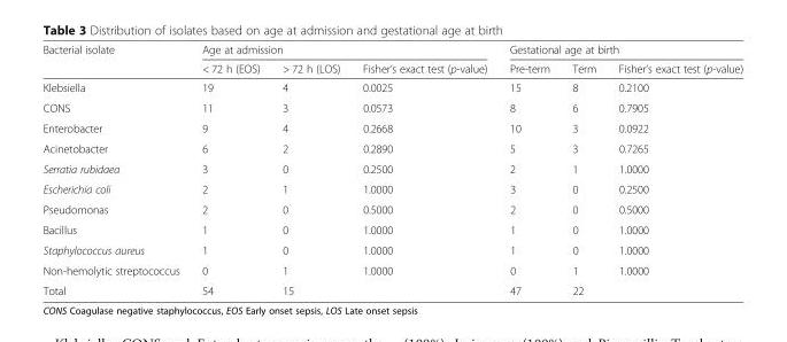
<table><thead><tr><td rowspan="2">Bacterial isolate</td><td colspan="3">Age at admission</td><td colspan="3">Gestational age at birth</td></tr><tr><td>&lt; 72 h (EOS)</td><td>&gt; 72 h (LOS)</td><td>Fisher’s exact test (p-value)</td><td>Pre-term</td><td>Term</td><td>Fisher’s exact test (p-value)</td></tr></thead><tbody><tr><td>Klebsiella</td><td>19</td><td>4</td><td>0.0025</td><td>15</td><td>8</td><td>0.2100</td></tr><tr><td>CONS</td><td>11</td><td>3</td><td>0.0573</td><td>8</td><td>6</td><td>0.7905</td></tr><tr><td>Enterobacter</td><td>9</td><td>4</td><td>0.2668</td><td>10</td><td>3</td><td>0.0922</td></tr><tr><td>Acinetobacter</td><td>6</td><td>2</td><td>0.2890</td><td>5</td><td>3</td><td>0.7265</td></tr><tr><td>Serratia rubidaea</td><td>3</td><td>0</td><td>0.2500</td><td>2</td><td>1</td><td>1.0000</td></tr><tr><td>Escherichia coli</td><td>2</td><td>1</td><td>1.0000</td><td>3</td><td>0</td><td>0.2500</td></tr><tr><td>Pseudomonas</td><td>2</td><td>0</td><td>0.5000</td><td>2</td><td>0</td><td>0.5000</td></tr><tr><td>Bacillus</td><td>1</td><td>0</td><td>1.0000</td><td>1</td><td>0</td><td>1.0000</td></tr><tr><td>Staphylococcus aureus</td><td>1</td><td>0</td><td>1.0000</td><td>1</td><td>0</td><td>1.0000</td></tr><tr><td>Non-hemolytic streptococcus</td><td>0</td><td>1</td><td>1.0000</td><td>0</td><td>1</td><td>1.0000</td></tr><tr><td>Total</td><td>54</td><td>15</td><td></td><td>47</td><td>22</td><td></td></tr></tbody></table>